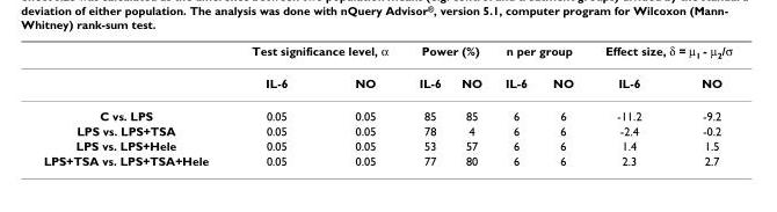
<table><thead><tr><td rowspan="2"></td><td colspan="2">Test significance level, α</td><td colspan="2">Power (%)</td><td colspan="2">n per group</td><td colspan="2">Effect size, δ = µ<sub>1</sub> - µ<sub>2</sub>/σ</td></tr><tr><td>IL-6</td><td>NO</td><td>IL-6</td><td>NO</td><td>IL-6</td><td>NO</td><td>IL-6</td><td>NO</td></tr></thead><tbody><tr><td>C vs. LPS</td><td>0.05</td><td>0.05</td><td>85</td><td>85</td><td>6</td><td>6</td><td>-11.2</td><td>-9.2</td></tr><tr><td>LPS vs. LPS+TSA</td><td>0.05</td><td>0.05</td><td>78</td><td>4</td><td>6</td><td>6</td><td>-2.4</td><td>-0.2</td></tr><tr><td>LPS vs. LPS+Hele</td><td>0.05</td><td>0.05</td><td>53</td><td>57</td><td>6</td><td>6</td><td>1.4</td><td>1.5</td></tr><tr><td>LPS+TSA vs. LPS+TSA+Hele</td><td>0.05</td><td>0.05</td><td>77</td><td>80</td><td>6</td><td>6</td><td>2.3</td><td>2.7</td></tr></tbody></table>